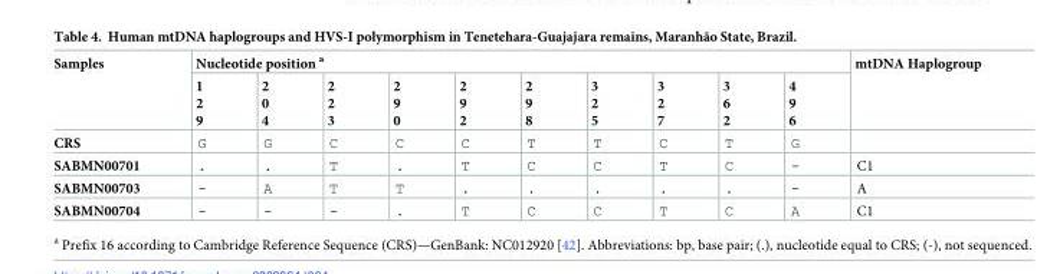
<table><thead><tr><td rowspan="2">Samples</td><td colspan="10">Nucleotide position <sup>a</sup></td><td rowspan="2">mtDNA Haplogroup</td></tr><tr><td>1 2 9</td><td>2 0 4</td><td>2 2 3</td><td>2 9 0</td><td>2 9 2</td><td>2 9 8</td><td>3 2 5</td><td>3 2 7</td><td>3 6 2</td><td>4 9 6</td></tr></thead><tbody><tr><td>CRS</td><td>G</td><td>G</td><td>C</td><td>C</td><td>C</td><td>T</td><td>T</td><td>C</td><td>T</td><td>G</td><td></td></tr><tr><td>SABMN00701</td><td>.</td><td>.</td><td>T</td><td>.</td><td>T</td><td>C</td><td>C</td><td>T</td><td>C</td><td>-</td><td>C1</td></tr><tr><td>SABMN00703</td><td>-</td><td>A</td><td>T</td><td>T</td><td>.</td><td>.</td><td>.</td><td>.</td><td>.</td><td>-</td><td>A</td></tr><tr><td>SABMN00704</td><td>-</td><td>-</td><td>-</td><td>.</td><td>T</td><td>C</td><td>C</td><td>T</td><td>C</td><td>A</td><td>C1</td></tr></tbody></table>